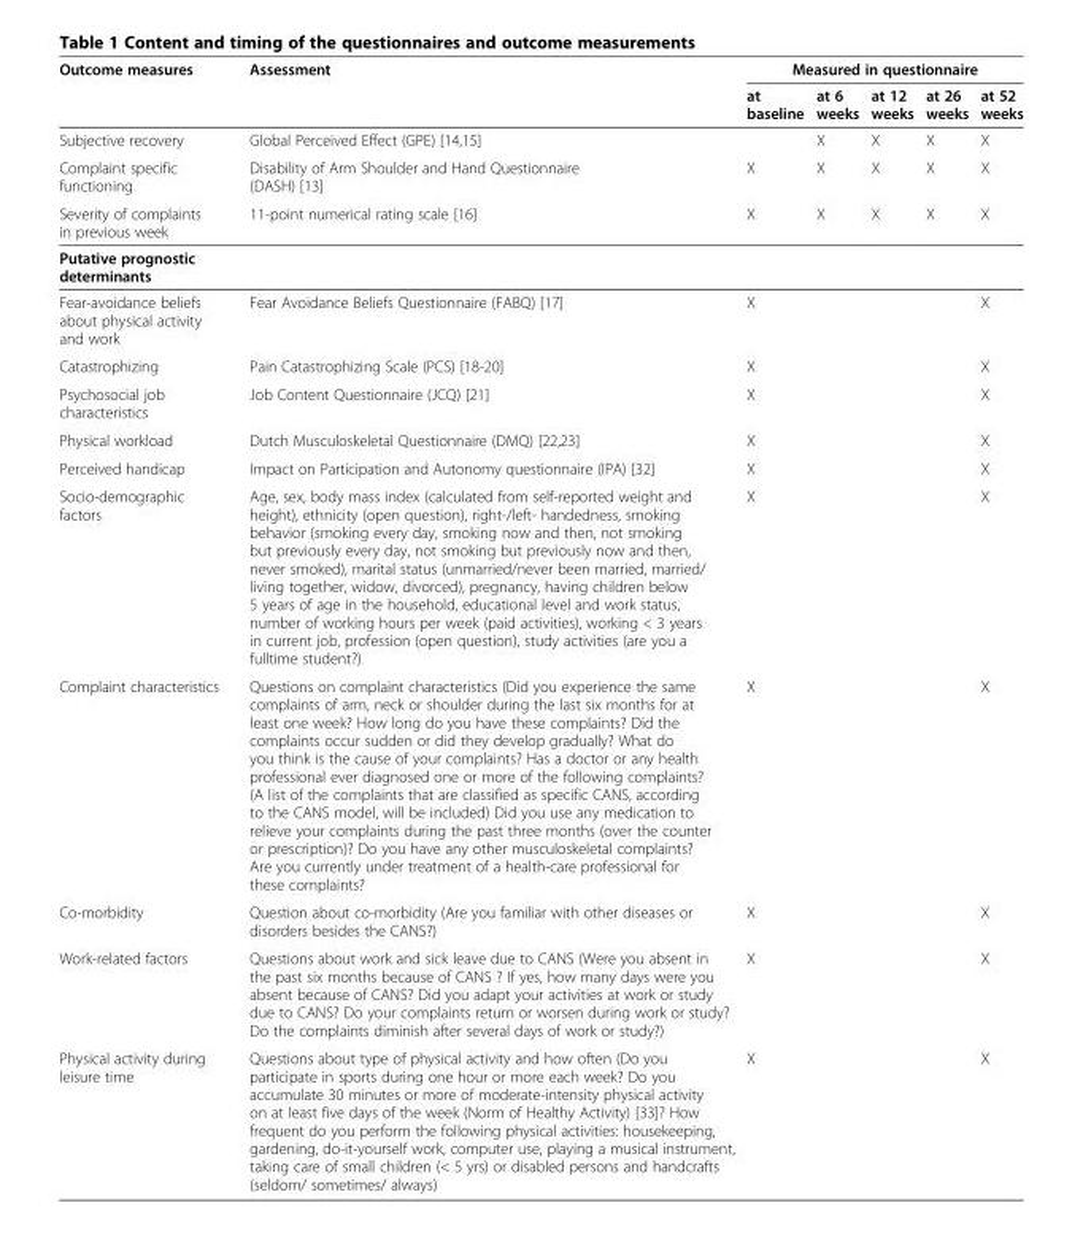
<table><tbody><tr><td rowspan="2">Outcome measures</td><td rowspan="2">Assessment</td><td colspan="5">Measured in questionnaire</td></tr><tr><td>at baseline</td><td>at 6 weeks</td><td>at 12 weeks</td><td>at 26 weeks</td><td>at 52 weeks</td></tr><tr><td>Subjective recovery</td><td>Global Perceived Effect (GPE) [14,15]</td><td></td><td>X</td><td>X</td><td>X</td><td>X</td></tr><tr><td>Complaint specific functioning</td><td>Disability of Arm Shoulder and Hand Questionnaire (DASH) [13]</td><td>X</td><td>X</td><td>X</td><td>X</td><td>X</td></tr><tr><td>Severity of complaints in previous week</td><td>11-point numerical rating scale [16]</td><td>X</td><td>X</td><td>X</td><td>X</td><td>X</td></tr><tr><td colspan="7">Putative prognostic determinants</td></tr><tr><td>Fear-avoidance beliefs about physical activity and work</td><td>Fear Avoidance Beliefs Questionnaire (FABQ) [17]</td><td>X</td><td></td><td></td><td></td><td>X</td></tr><tr><td>Catastrophizing</td><td>Pain Catastrophizing Scale (PCS) [18-20]</td><td>X</td><td></td><td></td><td></td><td>X</td></tr><tr><td>Psychosocial job characteristics</td><td>Job Content Questionnaire (JCQ) [21]</td><td>X</td><td></td><td></td><td></td><td>X</td></tr><tr><td>Physical workload</td><td>Dutch Musculoskeletal Questionnaire (DMQ) [22,23]</td><td>X</td><td></td><td></td><td></td><td>X</td></tr><tr><td>Perceived handicap</td><td>Impact on Participation and Autonomy questionnaire (IPA) [32]</td><td>X</td><td></td><td></td><td></td><td>X</td></tr><tr><td>Socio-demographic factors</td><td>Age, sex, body mass index (calculated from self-reported weight and height), ethnicity (open question), right-/left- handedness, smoking behavior (smoking every day, smoking now and then, not smoking but previously every day, not smoking but previously now and then, never smoked), marital status (unmarried/never been married, married/ living together, widow, divorced), pregnancy, having children below 5 years of age in the household, educational level and work status, number of working hours per week (paid activities), working &lt; 3 years in current job, profession (open question), study activities (are you a fulltime student?)</td><td>X</td><td></td><td></td><td></td><td>X</td></tr><tr><td>Complaint characteristics</td><td>Questions on complaint characteristics (Did you experience the same complaints of arm, neck or shoulder during the last six months for at least one week? How long do you have these complaints? Did the complaints occur sudden or did they develop gradually? What do you think is the cause of your complaints? Has a doctor or any health professional ever diagnosed one or more of the following complaints? (A list of the complaints that are classified as specific CANS, according to the CANS model, will be included) Did you use any medication to relieve your complaints during the past three months (over the counter or prescription)? Do you have any other musculoskeletal complaints? Are you currently under treatment of a health-care professional for these complaints?</td><td>X</td><td></td><td></td><td></td><td>X</td></tr><tr><td>Co-morbidity</td><td>Question about co-morbidity (Are you familiar with other diseases or disorders besides the CANS?)</td><td>X</td><td></td><td></td><td></td><td>X</td></tr><tr><td>Work-related factors</td><td>Questions about work and sick leave due to CANS (Were you absent in the past six months because of CANS ? If yes, how many days were you absent because of CANS? Did you adapt your activities at work or study due to CANS? Do your complaints return or worsen during work or study? Do the complaints diminish after several days of work or study?)</td><td>X</td><td></td><td></td><td></td><td>X</td></tr><tr><td>Physical activity during leisure time</td><td>Questions about type of physical activity and how often (Do you participate in sports during one hour or more each week? Do you accumulate 30 minutes or more of moderate-intensity physical activity on at least five days of the week (Norm of Healthy Activity) [33]? How frequent do you perform the following physical activities: housekeeping, gardening, do-it-yourself work, computer use, playing a musical instrument, taking care of small children (&lt; 5 yrs) or disabled persons and handcrafts (seldom/ sometimes/ always)</td><td>X</td><td></td><td></td><td></td><td>X</td></tr></tbody></table>